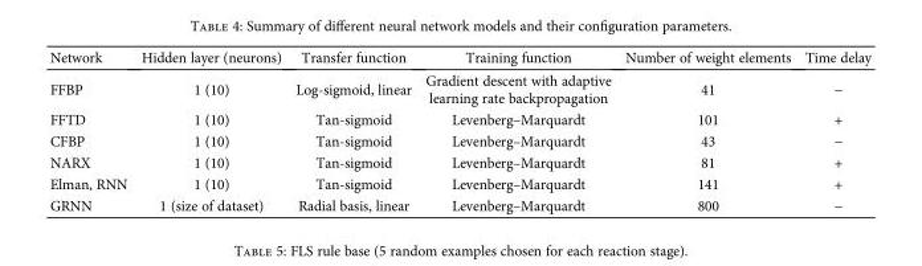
<table><thead><tr><td>Network</td><td>Hidden layer (neurons)</td><td>Transfer function</td><td>Training function</td><td>Number of weight elements</td><td>Time delay</td></tr></thead><tbody><tr><td>FFBP</td><td>1 (10)</td><td>Log-sigmoid, linear</td><td>Gradient descent with adaptive learning rate backpropagation</td><td>41</td><td>−</td></tr><tr><td>FFTD</td><td>1 (10)</td><td>Tan-sigmoid</td><td>Levenberg–Marquardt</td><td>101</td><td>+</td></tr><tr><td>CFBP</td><td>1 (10)</td><td>Tan-sigmoid</td><td>Levenberg–Marquardt</td><td>43</td><td>−</td></tr><tr><td>NARX</td><td>1 (10)</td><td>Tan-sigmoid</td><td>Levenberg–Marquardt</td><td>81</td><td>+</td></tr><tr><td>Elman, RNN</td><td>1 (10)</td><td>Tan-sigmoid</td><td>Levenberg–Marquardt</td><td>141</td><td>+</td></tr><tr><td>GRNN</td><td>1 (size of dataset)</td><td>Radial basis, linear</td><td>Levenberg–Marquardt</td><td>800</td><td>−</td></tr></tbody></table>